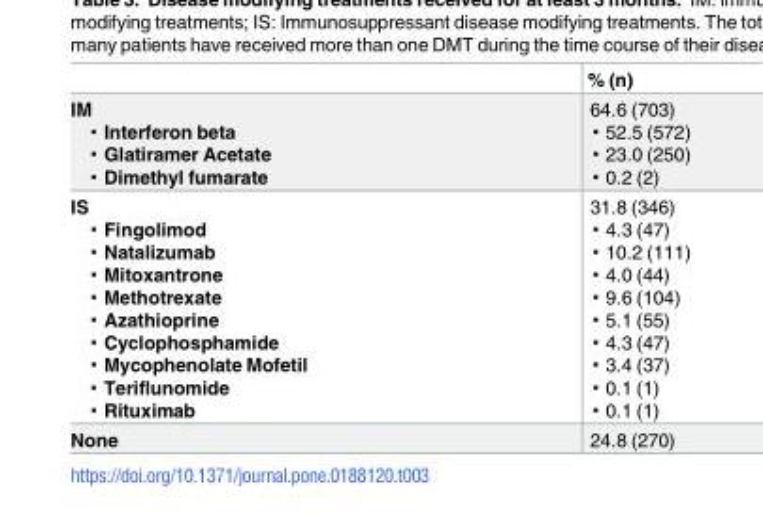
<table><thead><tr><td></td><td>% (n)</td></tr></thead><tbody><tr><td>IM ▪ Interferon beta ▪ Glatiramer Acetate ▪ Dimethyl fumarate</td><td>64.6 (703) ▪ 52.5 (572) ▪ 23.0 (250) ▪ 0.2 (2)</td></tr><tr><td>IS ▪ Fingolimod ▪ Natalizumab ▪ Mitoxantrone ▪ Methotrexate ▪ Azathioprine ▪ Cyclophosphamide ▪ Mycophenolate Mofetil ▪ Teriflunomide ▪ Rituximab</td><td>31.8 (346) ▪ 4.3 (47) ▪ 10.2 (111) ▪ 4.0 (44) ▪ 9.6 (104) ▪ 5.1 (55) ▪ 4.3 (47) ▪ 3.4 (37) ▪ 0.1 (1) ▪ 0.1 (1)</td></tr><tr><td>None</td><td>24.8 (270)</td></tr></tbody></table>